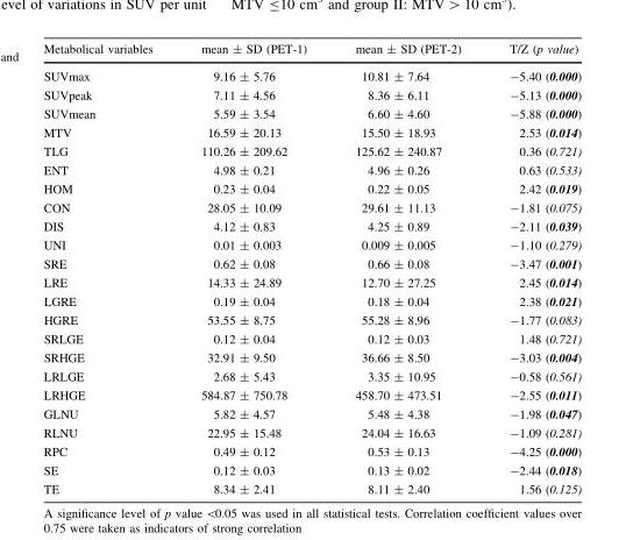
<table><thead><tr><td>Metabolical variables</td><td>mean ± SD (PET-1)</td><td>mean ± SD (PET-2)</td><td>T/Z (p value)</td></tr></thead><tbody><tr><td>SUVmax</td><td>9.16 ± 5.76</td><td>10.81 ± 7.64</td><td>-5.40 (0.000)</td></tr><tr><td>SUVpeak</td><td>7.11 ± 4.56</td><td>8.36 ± 6.11</td><td>-5.13 (0.000)</td></tr><tr><td>SUVmean</td><td>5.59 ± 3.54</td><td>6.60 ± 4.60</td><td>-5.88 (0.000)</td></tr><tr><td>MTV</td><td>16.59 ± 20.13</td><td>15.50 ± 18.93</td><td>2.53 (0.014)</td></tr><tr><td>TLG</td><td>110.26 ± 209.62</td><td>125.62 ± 240.87</td><td>0.36 (0.721)</td></tr><tr><td>ENT</td><td>4.98 ± 0.21</td><td>4.96 ± 0.26</td><td>0.63 (0.533)</td></tr><tr><td>HOM</td><td>0.23 ± 0.04</td><td>0.22 ± 0.05</td><td>2.42 (0.019)</td></tr><tr><td>CON</td><td>28.05 ± 10.09</td><td>29.61 ± 11.13</td><td>-1.81 (0.075)</td></tr><tr><td>DIS</td><td>4.12 ± 0.83</td><td>4.25 ± 0.89</td><td>-2.11 (0.039)</td></tr><tr><td>UNI</td><td>0.01 ± 0.003</td><td>0.009 ± 0.005</td><td>-1.10 (0.279)</td></tr><tr><td>SRE</td><td>0.62 ± 0.08</td><td>0.66 ± 0.08</td><td>-3.47 (0.001)</td></tr><tr><td>LRE</td><td>14.33 ± 24.89</td><td>12.70 ± 27.25</td><td>2.45 (0.014)</td></tr><tr><td>LGRE</td><td>0.19 ± 0.04</td><td>0.18 ± 0.04</td><td>2.38 (0.021)</td></tr><tr><td>HGRE</td><td>53.55 ± 8.75</td><td>55.28 ± 8.96</td><td>-1.77 (0.083)</td></tr><tr><td>SRLGE</td><td>0.12 ± 0.04</td><td>0.12 ± 0.03</td><td>1.48 (0.721)</td></tr><tr><td>SRHGE</td><td>32.91 ± 9.50</td><td>36.66 ± 8.50</td><td>-3.03 (0.004)</td></tr><tr><td>LRLGE</td><td>2.68 ± 5.43</td><td>3.35 ± 10.95</td><td>-0.58 (0.561)</td></tr><tr><td>LRHGE</td><td>584.87 ± 750.78</td><td>458.70 ± 473.51</td><td>-2.55 (0.011)</td></tr><tr><td>GLNU</td><td>5.82 ± 4.57</td><td>5.48 ± 4.38</td><td>-1.98 (0.047)</td></tr><tr><td>RLNU</td><td>22.95 ± 15.48</td><td>24.04 ± 16.63</td><td>-1.09 (0.281)</td></tr><tr><td>RPC</td><td>0.49 ± 0.12</td><td>0.53 ± 0.13</td><td>-4.25 (0.000)</td></tr><tr><td>SE</td><td>0.12 ± 0.03</td><td>0.13 ± 0.02</td><td>-2.44 (0.018)</td></tr><tr><td>TE</td><td>8.34 ± 2.41</td><td>8.11 ± 2.40</td><td>1.56 (0.125)</td></tr></tbody></table>